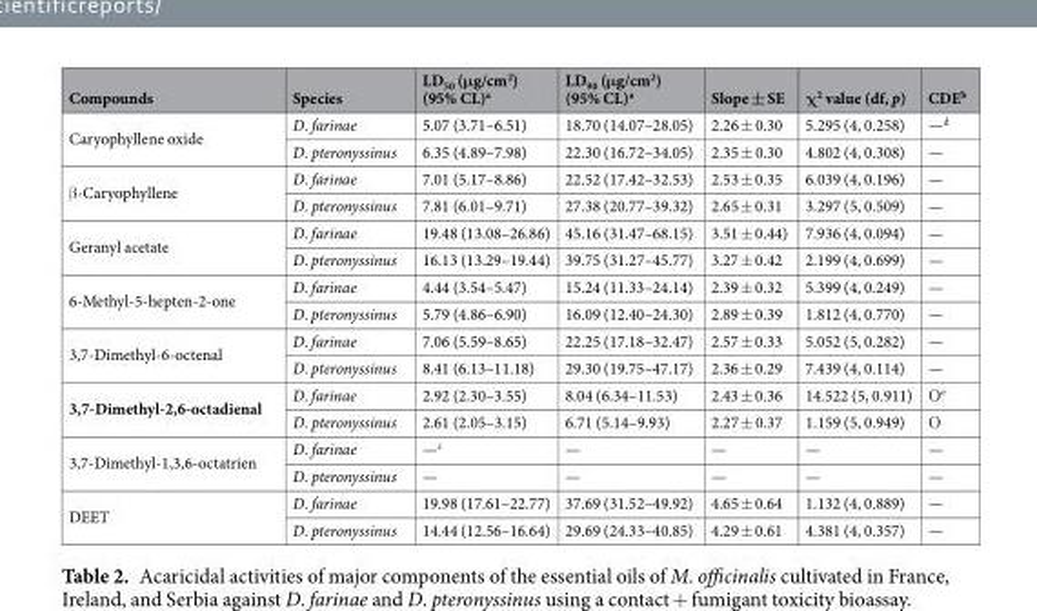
<table><thead><tr><td>Compounds</td><td>Species</td><td>LD<sub>50</sub> (μg/cm<sup>2</sup>) (95% CL)<sup>a</sup></td><td>LD<sub>90</sub> (μg/cm<sup>2</sup>) (95% CL)<sup>a</sup></td><td>Slope ± SE</td><td>χ<sup>2</sup> value (df, p)</td><td>CDE<sup>b</sup></td></tr></thead><tbody><tr><td rowspan="2">Caryophyllene oxide</td><td>D. farinae</td><td>5.07 (3.71–6.51)</td><td>18.70 (14.07–28.05)</td><td>2.26 ± 0.30</td><td>5.295 (4, 0.258)</td><td>—<sup>d</sup></td></tr><tr><td>D. pteronyssinus</td><td>6.35 (4.89–7.98)</td><td>22.30 (16.72–34.05)</td><td>2.35 ± 0.30</td><td>4.802 (4, 0.308)</td><td>—</td></tr><tr><td rowspan="2">β-Caryophyllene</td><td>D. farinae</td><td>7.01 (5.17–8.86)</td><td>22.52 (17.42–32.53)</td><td>2.53 ± 0.35</td><td>6.039 (4, 0.196)</td><td>—</td></tr><tr><td>D. pteronyssinus</td><td>7.81 (6.01–9.71)</td><td>27.38 (20.77–39.32)</td><td>2.65 ± 0.31</td><td>3.297 (5, 0.509)</td><td>—</td></tr><tr><td rowspan="2">Geranyl acetate</td><td>D. farinae</td><td>19.48 (13.08–26.86)</td><td>45.16 (31.47–68.15)</td><td>3.51 ± 0.44)</td><td>7.936 (4, 0.094)</td><td>—</td></tr><tr><td>D. pteronyssinus</td><td>16.13 (13.29–19.44)</td><td>39.75 (31.27–45.77)</td><td>3.27 ± 0.42</td><td>2.199 (4, 0.699)</td><td>—</td></tr><tr><td rowspan="2">6-Methyl-5-hepten-2-one</td><td>D. farinae</td><td>4.44 (3.54–5.47)</td><td>15.24 (11.33–24.14)</td><td>2.39 ± 0.32</td><td>5.399 (4, 0.249)</td><td>—</td></tr><tr><td>D. pteronyssinus</td><td>5.79 (4.86–6.90)</td><td>16.09 (12.40–24.30)</td><td>2.89 ± 0.39</td><td>1.812 (4, 0.770)</td><td>—</td></tr><tr><td rowspan="2">3,7-Dimethyl-6-octenal</td><td>D. farinae</td><td>7.06 (5.59–8.65)</td><td>22.25 (17.18–32.47)</td><td>2.57 ± 0.33</td><td>5.052 (5, 0.282)</td><td>—</td></tr><tr><td>D. pteronyssinus</td><td>8.41 (6.13–11.18)</td><td>29.30 (19.75–47.17)</td><td>2.36 ± 0.29</td><td>7.439 (4, 0.114)</td><td>—</td></tr><tr><td rowspan="2">3,7-Dimethyl-2,6-octadienal</td><td>D. farinae</td><td>2.92 (2.30–3.55)</td><td>8.04 (6.34–11.53)</td><td>2.43 ± 0.36</td><td>14.522 (5, 0.911)</td><td>Ο<sup>e</sup></td></tr><tr><td>D. pteronyssinus</td><td>2.61 (2.05–3.15)</td><td>6.71 (5.14–9.93)</td><td>2.27 ± 0.37</td><td>1.159 (5, 0.949)</td><td>Ο</td></tr><tr><td rowspan="2">3,7-Dimethyl-1,3,6-octatrien</td><td>D. farinae</td><td>—<sup>c</sup></td><td>—</td><td>—</td><td>—</td><td>—</td></tr><tr><td>D. pteronyssinus</td><td>—</td><td>—</td><td>—</td><td>—</td><td>—</td></tr><tr><td rowspan="2">DEET</td><td>D. farinae</td><td>19.98 (17.61–22.77)</td><td>37.69 (31.52–49.92)</td><td>4.65 ± 0.64</td><td>1.132 (4, 0.889)</td><td>—</td></tr><tr><td>D. pteronyssinus</td><td>14.44 (12.56–16.64)</td><td>29.69 (24.33–40.85)</td><td>4.29 ± 0.61</td><td>4.381 (4, 0.357)</td><td>—</td></tr></tbody></table>